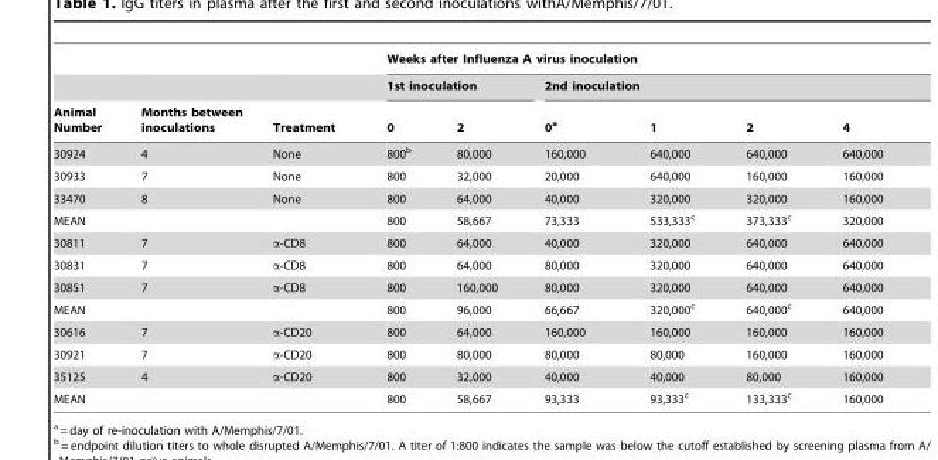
<table><thead><tr><td rowspan="3">Animal Number</td><td rowspan="3">Months between inoculations</td><td rowspan="3">Treatment</td><td colspan="6">Weeks after Influenza A virus inoculation</td></tr><tr><td colspan="2">1st inoculation</td><td colspan="4">2nd inoculation</td></tr><tr><td>0</td><td>2</td><td>0<sup>a</sup></td><td>1</td><td>2</td><td>4</td></tr></thead><tbody><tr><td>30924</td><td>4</td><td>None</td><td>800<sup>b</sup></td><td>80,000</td><td>160,000</td><td>640,000</td><td>640,000</td><td>640,000</td></tr><tr><td>30933</td><td>7</td><td>None</td><td>800</td><td>32,000</td><td>20,000</td><td>640,000</td><td>160,000</td><td>160,000</td></tr><tr><td>33470</td><td>8</td><td>None</td><td>800</td><td>64,000</td><td>40,000</td><td>320,000</td><td>320,000</td><td>160,000</td></tr><tr><td>MEAN</td><td></td><td></td><td>800</td><td>58,667</td><td>73,333</td><td>533,333<sup>c</sup></td><td>373,333<sup>c</sup></td><td>320,000</td></tr><tr><td>30811</td><td>7</td><td>α-CD8</td><td>800</td><td>64,000</td><td>40,000</td><td>320,000</td><td>640,000</td><td>640,000</td></tr><tr><td>30831</td><td>7</td><td>α-CD8</td><td>800</td><td>64,000</td><td>80,000</td><td>320,000</td><td>640,000</td><td>640,000</td></tr><tr><td>30851</td><td>7</td><td>α-CD8</td><td>800</td><td>160,000</td><td>80,000</td><td>320,000</td><td>640,000</td><td>640,000</td></tr><tr><td>MEAN</td><td></td><td></td><td>800</td><td>96,000</td><td>66,667</td><td>320,000<sup>c</sup></td><td>640,000<sup>c</sup></td><td>640,000</td></tr><tr><td>30616</td><td>7</td><td>α-CD20</td><td>800</td><td>64,000</td><td>160,000</td><td>160,000</td><td>160,000</td><td>160,000</td></tr><tr><td>30921</td><td>7</td><td>α-CD20</td><td>800</td><td>80,000</td><td>80,000</td><td>80,000</td><td>160,000</td><td>160,000</td></tr><tr><td>35125</td><td>4</td><td>α-CD20</td><td>800</td><td>32,000</td><td>40,000</td><td>40,000</td><td>80,000</td><td>160,000</td></tr><tr><td>MEAN</td><td></td><td></td><td>800</td><td>58,667</td><td>93,333</td><td>93,333<sup>c</sup></td><td>133,333<sup>c</sup></td><td>160,000</td></tr></tbody></table>